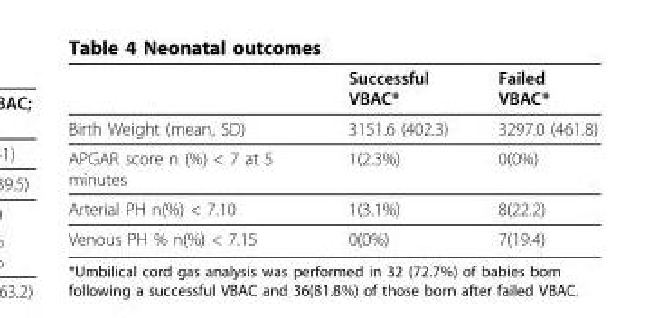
<table><thead><tr><td></td><td>Successful VBAC*</td><td>Failed VBAC*</td></tr></thead><tbody><tr><td>Birth Weight (mean, SD)</td><td>3151.6 (402.3)</td><td>3297.0 (461.8)</td></tr><tr><td>APGAR score n (%) &lt; 7 at 5 minutes</td><td>1(2.3%)</td><td>0(0%)</td></tr><tr><td>Arterial PH n(%) &lt; 7.10</td><td>1(3.1%)</td><td>8(22.2)</td></tr><tr><td>Venous PH % n(%) &lt; 7.15</td><td>0(0%)</td><td>7(19.4)</td></tr></tbody></table>